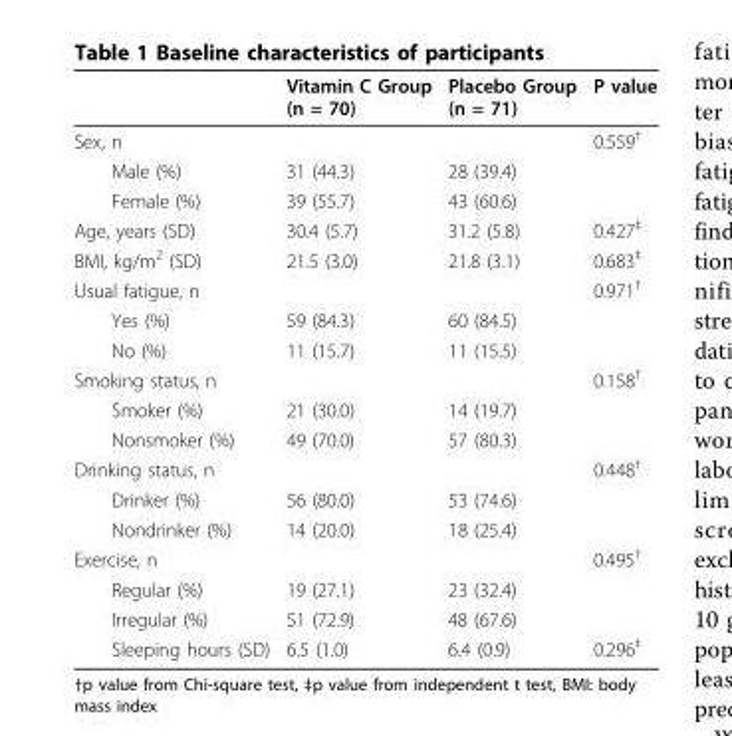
<table><thead><tr><td></td><td>Vitamin C Group (n = 70)</td><td>Placebo Group (n = 71)</td><td>P value</td></tr></thead><tbody><tr><td>Sex, n</td><td></td><td></td><td>0.559<sup>†</sup></td></tr><tr><td>Male (%)</td><td>31 (44.3)</td><td>28 (39.4)</td><td></td></tr><tr><td>Female (%)</td><td>39 (55.7)</td><td>43 (60.6)</td><td></td></tr><tr><td>Age, years (SD)</td><td>30.4 (5.7)</td><td>31.2 (5.8)</td><td>0.427<sup>‡</sup></td></tr><tr><td>BMI, kg/m<sup>2</sup> (SD)</td><td>21.5 (3.0)</td><td>21.8 (3.1)</td><td>0.683<sup>‡</sup></td></tr><tr><td>Usual fatigue, n</td><td></td><td></td><td>0.971<sup>†</sup></td></tr><tr><td>Yes (%)</td><td>59 (84.3)</td><td>60 (84.5)</td><td></td></tr><tr><td>No (%)</td><td>11 (15.7)</td><td>11 (15.5)</td><td></td></tr><tr><td>Smoking status, n</td><td></td><td></td><td>0.158<sup>†</sup></td></tr><tr><td>Smoker (%)</td><td>21 (30.0)</td><td>14 (19.7)</td><td></td></tr><tr><td>Nonsmoker (%)</td><td>49 (70.0)</td><td>57 (80.3)</td><td></td></tr><tr><td>Drinking status, n</td><td></td><td></td><td>0.448<sup>†</sup></td></tr><tr><td>Drinker (%)</td><td>56 (80.0)</td><td>53 (74.6)</td><td></td></tr><tr><td>Nondrinker (%)</td><td>14 (20.0)</td><td>18 (25.4)</td><td></td></tr><tr><td>Exercise, n</td><td></td><td></td><td>0.495<sup>†</sup></td></tr><tr><td>Regular (%)</td><td>19 (27.1)</td><td>23 (32.4)</td><td></td></tr><tr><td>Irregular (%)</td><td>51 (72.9)</td><td>48 (67.6)</td><td></td></tr><tr><td>Sleeping hours (SD)</td><td>6.5 (1.0)</td><td>6.4 (0.9)</td><td>0.296<sup>‡</sup></td></tr></tbody></table>